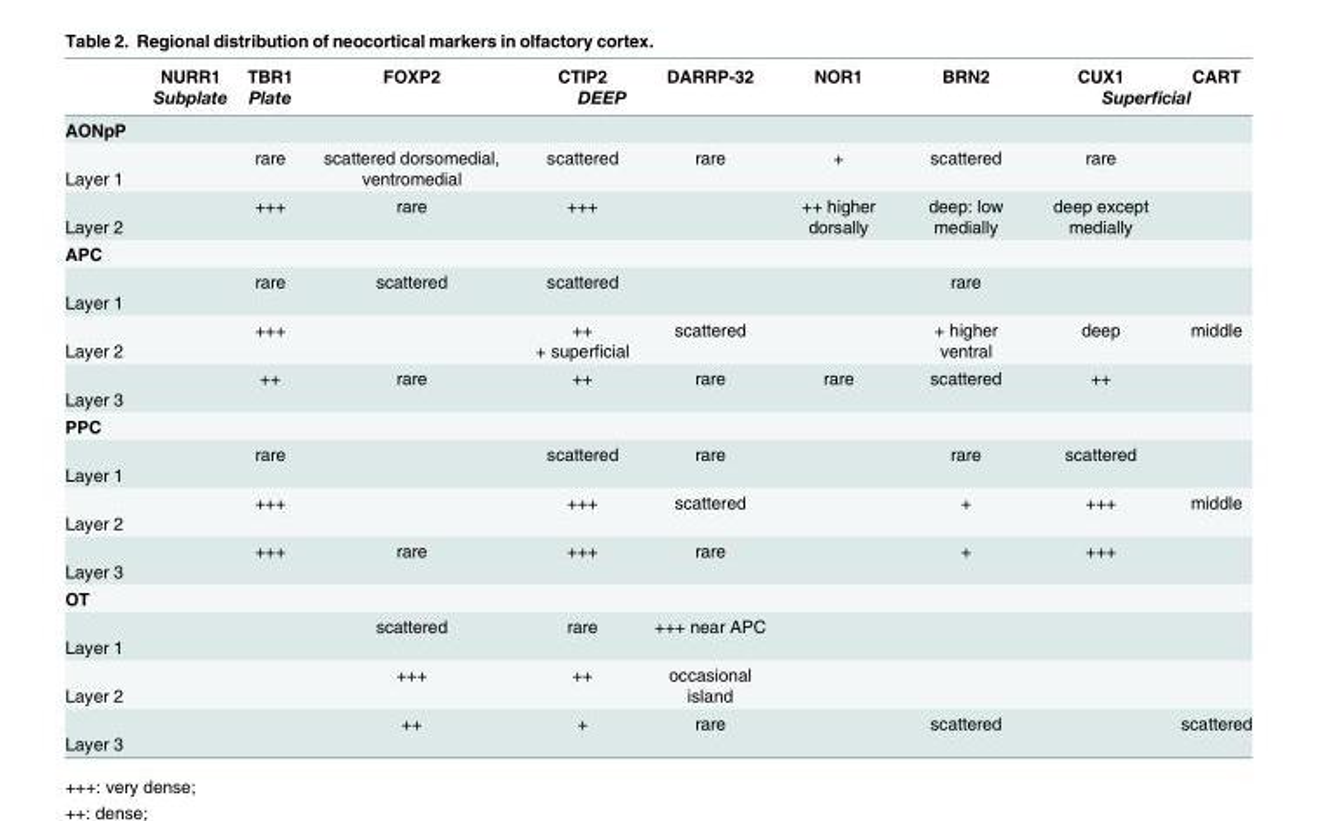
<table><thead><tr><td rowspan="2"></td><td rowspan="2">NURR1 Subplate</td><td rowspan="2">TBR1 Plate</td><td>FOXP2</td><td>CTIP2</td><td>DARRP-32</td><td>NOR1</td><td rowspan="2">BRN2</td><td>CUX1</td><td>CART</td></tr><tr><td colspan="4">DEEP</td><td colspan="2">Superficial</td></tr></thead><tbody><tr><td colspan="10">AONpP</td></tr><tr><td>Layer 1</td><td></td><td>rare</td><td>scattered dorsomedial, ventromedial</td><td>scattered</td><td>rare</td><td>+</td><td>scattered</td><td>rare</td><td></td></tr><tr><td>Layer 2</td><td></td><td>+++</td><td>rare</td><td>+++</td><td></td><td>++ higher dorsally</td><td>deep: low medially</td><td>deep except medially</td><td></td></tr><tr><td colspan="10">APC</td></tr><tr><td>Layer 1</td><td></td><td>rare</td><td>scattered</td><td>scattered</td><td></td><td></td><td>rare</td><td></td><td></td></tr><tr><td>Layer 2</td><td></td><td>+++</td><td></td><td>++ + superficial</td><td>scattered</td><td></td><td>+ higher ventral</td><td>deep</td><td>middle</td></tr><tr><td>Layer 3</td><td></td><td>++</td><td>rare</td><td>++</td><td>rare</td><td>rare</td><td>scattered</td><td>++</td><td></td></tr><tr><td colspan="10">PPC</td></tr><tr><td>Layer 1</td><td></td><td>rare</td><td></td><td>scattered</td><td>rare</td><td></td><td>rare</td><td>scattered</td><td></td></tr><tr><td>Layer 2</td><td></td><td>+++</td><td></td><td>+++</td><td>scattered</td><td></td><td>+</td><td>+++</td><td>middle</td></tr><tr><td>Layer 3</td><td></td><td>+++</td><td>rare</td><td>+++</td><td>rare</td><td></td><td>+</td><td>+++</td><td></td></tr><tr><td colspan="10">OT</td></tr><tr><td>Layer 1</td><td></td><td></td><td>scattered</td><td>rare</td><td>+++ near APC</td><td></td><td></td><td></td><td></td></tr><tr><td>Layer 2</td><td></td><td></td><td>+++</td><td>++</td><td>occasional island</td><td></td><td></td><td></td><td></td></tr><tr><td>Layer 3</td><td></td><td></td><td>++</td><td>+</td><td>rare</td><td></td><td>scattered</td><td></td><td>scattered</td></tr></tbody></table>